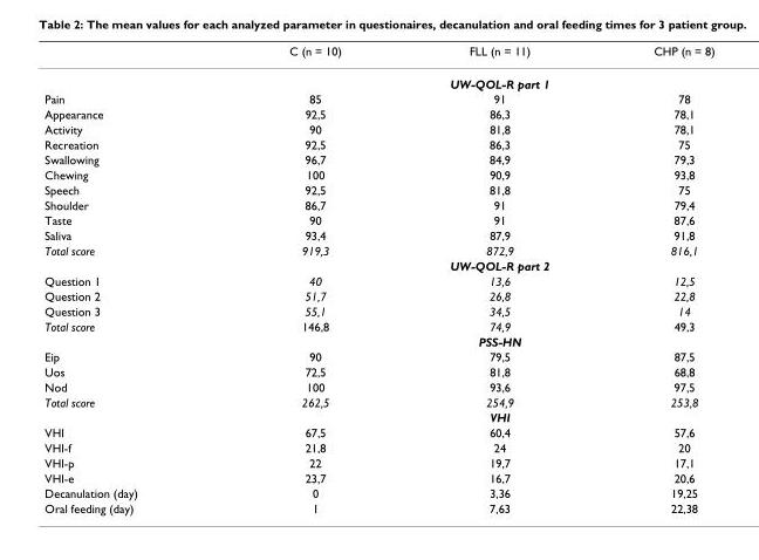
<table><thead><tr><td></td><td>C (n = 10)</td><td>FLL (n = 11)</td><td>CHP (n = 8)</td></tr></thead><tbody><tr><td></td><td></td><td>UW-QOL-R part 1</td><td></td></tr><tr><td>Pain</td><td>85</td><td>91</td><td>78</td></tr><tr><td>Appearance</td><td>92,5</td><td>86,3</td><td>78,1</td></tr><tr><td>Activity</td><td>90</td><td>81,8</td><td>78,1</td></tr><tr><td>Recreation</td><td>92,5</td><td>86,3</td><td>75</td></tr><tr><td>Swallowing</td><td>96,7</td><td>84,9</td><td>79,3</td></tr><tr><td>Chewing</td><td>100</td><td>90,9</td><td>93,8</td></tr><tr><td>Speech</td><td>92,5</td><td>81,8</td><td>75</td></tr><tr><td>Shoulder</td><td>86,7</td><td>91</td><td>79,4</td></tr><tr><td>Taste</td><td>90</td><td>91</td><td>87,6</td></tr><tr><td>Saliva</td><td>93,4</td><td>87,9</td><td>91,8</td></tr><tr><td rowspan="2">Total score</td><td>919,3</td><td>872,9</td><td>816,1</td></tr><tr><td></td><td>UW-QOL-R part 2</td><td></td></tr><tr><td>Question 1</td><td>40</td><td>13,6</td><td>12,5</td></tr><tr><td>Question 2</td><td>51,7</td><td>26,8</td><td>22,8</td></tr><tr><td>Question 3</td><td>55,1</td><td>34,5</td><td>14</td></tr><tr><td rowspan="2">Total score</td><td>146,8</td><td>74,9</td><td>49,3</td></tr><tr><td></td><td>PSS-HN</td><td></td></tr><tr><td>Eip</td><td>90</td><td>79,5</td><td>87,5</td></tr><tr><td>Uos</td><td>72,5</td><td>81,8</td><td>68,8</td></tr><tr><td>Nod</td><td>100</td><td>93,6</td><td>97,5</td></tr><tr><td rowspan="2">Total score</td><td>262,5</td><td>254,9</td><td>253,8</td></tr><tr><td></td><td>VHI</td><td></td></tr><tr><td>VHI</td><td>67,5</td><td>60,4</td><td>57,6</td></tr><tr><td>VHI-f</td><td>21,8</td><td>24</td><td>20</td></tr><tr><td>VHI-p</td><td>22</td><td>19,7</td><td>17,1</td></tr><tr><td>VHI-e</td><td>23,7</td><td>16,7</td><td>20,6</td></tr><tr><td>Decanulation (day)</td><td>0</td><td>3,36</td><td>19,25</td></tr><tr><td>Oral feeding (day)</td><td>1</td><td>7,63</td><td>22,38</td></tr></tbody></table>